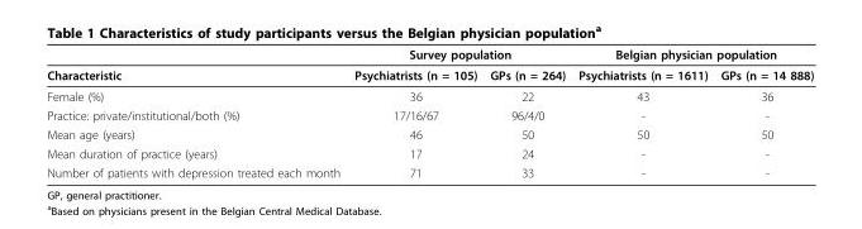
<table><thead><tr><td rowspan="2">Characteristic</td><td colspan="2">Survey population</td><td colspan="2">Belgian physician population</td></tr><tr><td>Psychiatrists (n = 105)</td><td>GPs (n = 264)</td><td>Psychiatrists (n = 1611)</td><td>GPs (n = 14 888)</td></tr></thead><tbody><tr><td>Female (%)</td><td>36</td><td>22</td><td>43</td><td>36</td></tr><tr><td>Practice: private/institutional/both (%)</td><td>17/16/67</td><td>96/4/0</td><td>-</td><td>-</td></tr><tr><td>Mean age (years)</td><td>46</td><td>50</td><td>50</td><td>50</td></tr><tr><td>Mean duration of practice (years)</td><td>17</td><td>24</td><td>-</td><td>-</td></tr><tr><td>Number of patients with depression treated each month</td><td>71</td><td>33</td><td>-</td><td>-</td></tr></tbody></table>